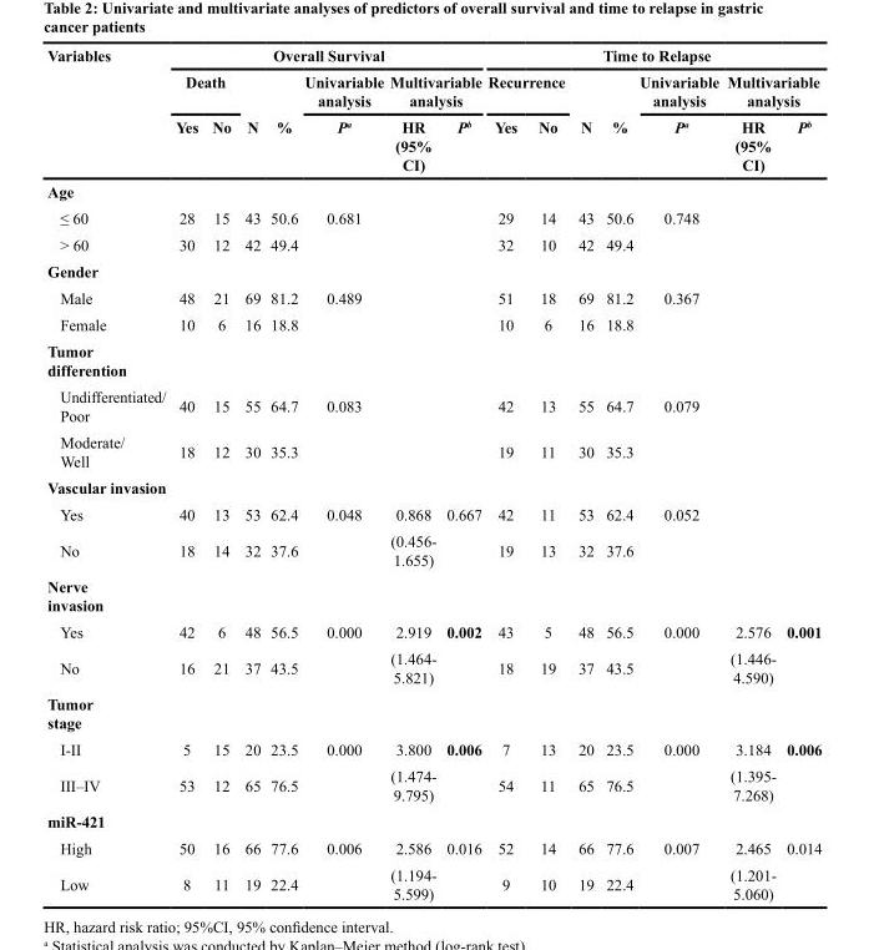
<table><thead><tr><td rowspan="3">Variables</td><td colspan="7">Overall Survival</td><td colspan="7">Time to Relapse</td></tr><tr><td colspan="2">Death</td><td rowspan="2">N</td><td rowspan="2">%</td><td rowspan="2">Univariable analysis P<sup>a</sup></td><td colspan="2">Multivariable analysis</td><td colspan="2">Recurrence</td><td rowspan="2">N</td><td rowspan="2">%</td><td rowspan="2">Univariable analysis P<sup>a</sup></td><td colspan="2">Multivariable analysis</td></tr><tr><td>Yes</td><td>No</td><td>HR (95% CI)</td><td>P<sup>b</sup></td><td>Yes</td><td>No</td><td>HR (95% CI)</td><td>P<sup>b</sup></td></tr></thead><tbody><tr><td colspan="15">Age</td></tr><tr><td>≤ 60</td><td>28</td><td>15</td><td>43</td><td>50.6</td><td>0.681</td><td></td><td></td><td>29</td><td>14</td><td>43</td><td>50.6</td><td>0.748</td><td></td><td></td></tr><tr><td>&gt; 60</td><td>30</td><td>12</td><td>42</td><td>49.4</td><td></td><td></td><td></td><td>32</td><td>10</td><td>42</td><td>49.4</td><td></td><td></td><td></td></tr><tr><td colspan="15">Gender</td></tr><tr><td>Male</td><td>48</td><td>21</td><td>69</td><td>81.2</td><td>0.489</td><td></td><td></td><td>51</td><td>18</td><td>69</td><td>81.2</td><td>0.367</td><td></td><td></td></tr><tr><td>Female</td><td>10</td><td>6</td><td>16</td><td>18.8</td><td></td><td></td><td></td><td>10</td><td>6</td><td>16</td><td>18.8</td><td></td><td></td><td></td></tr><tr><td colspan="15">Tumor differention</td></tr><tr><td>Undifferentiated/ Poor</td><td>40</td><td>15</td><td>55</td><td>64.7</td><td>0.083</td><td></td><td></td><td>42</td><td>13</td><td>55</td><td>64.7</td><td>0.079</td><td></td><td></td></tr><tr><td>Moderate/ Well</td><td>18</td><td>12</td><td>30</td><td>35.3</td><td></td><td></td><td></td><td>19</td><td>11</td><td>30</td><td>35.3</td><td></td><td></td><td></td></tr><tr><td colspan="15">Vascular invasion</td></tr><tr><td>Yes</td><td>40</td><td>13</td><td>53</td><td>62.4</td><td>0.048</td><td>0.868</td><td>0.667</td><td>42</td><td>11</td><td>53</td><td>62.4</td><td>0.052</td><td></td><td></td></tr><tr><td>No</td><td>18</td><td>14</td><td>32</td><td>37.6</td><td></td><td>(0.456- 1.655)</td><td></td><td>19</td><td>13</td><td>32</td><td>37.6</td><td></td><td></td><td></td></tr><tr><td colspan="15">Nerve invasion</td></tr><tr><td>Yes</td><td>42</td><td>6</td><td>48</td><td>56.5</td><td>0.000</td><td>2.919</td><td>0.002</td><td>43</td><td>5</td><td>48</td><td>56.5</td><td>0.000</td><td>2.576</td><td>0.001</td></tr><tr><td>No</td><td>16</td><td>21</td><td>37</td><td>43.5</td><td></td><td>(1.464- 5.821)</td><td></td><td>18</td><td>19</td><td>37</td><td>43.5</td><td></td><td>(1.446- 4.590)</td><td></td></tr><tr><td colspan="15">Tumor stage</td></tr><tr><td>I-II</td><td>5</td><td>15</td><td>20</td><td>23.5</td><td>0.000</td><td>3.800</td><td>0.006</td><td>7</td><td>13</td><td>20</td><td>23.5</td><td>0.000</td><td>3.184</td><td>0.006</td></tr><tr><td>III–IV</td><td>53</td><td>12</td><td>65</td><td>76.5</td><td></td><td>(1.474- 9.795)</td><td></td><td>54</td><td>11</td><td>65</td><td>76.5</td><td></td><td>(1.395- 7.268)</td><td></td></tr><tr><td colspan="15">miR-421</td></tr><tr><td>High</td><td>50</td><td>16</td><td>66</td><td>77.6</td><td>0.006</td><td>2.586</td><td>0.016</td><td>52</td><td>14</td><td>66</td><td>77.6</td><td>0.007</td><td>2.465</td><td>0.014</td></tr><tr><td>Low</td><td>8</td><td>11</td><td>19</td><td>22.4</td><td></td><td>(1.194- 5.599)</td><td></td><td>9</td><td>10</td><td>19</td><td>22.4</td><td></td><td>(1.201- 5.060)</td><td></td></tr></tbody></table>